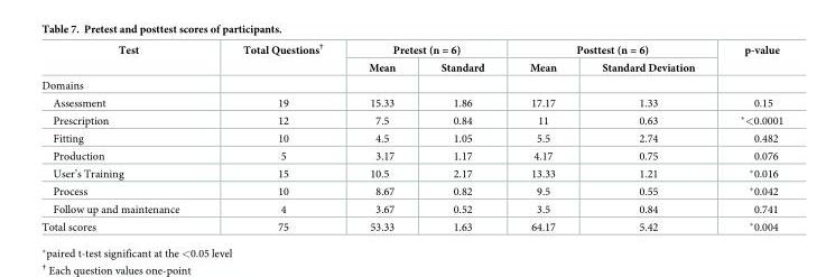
<table><thead><tr><td rowspan="2">Test</td><td rowspan="2">Total Questions<sup>†</sup></td><td colspan="2">Pretest (n = 6)</td><td colspan="2">Posttest (n = 6)</td><td rowspan="2">p-value</td></tr><tr><td>Mean</td><td>Standard</td><td>Mean</td><td>Standard Deviation</td></tr></thead><tbody><tr><td colspan="7">Domains</td></tr><tr><td>Assessment</td><td>19</td><td>15.33</td><td>1.86</td><td>17.17</td><td>1.33</td><td>0.15</td></tr><tr><td>Prescription</td><td>12</td><td>7.5</td><td>0.84</td><td>11</td><td>0.63</td><td>*&lt;0.0001</td></tr><tr><td>Fitting</td><td>10</td><td>4.5</td><td>1.05</td><td>5.5</td><td>2.74</td><td>0.482</td></tr><tr><td>Production</td><td>5</td><td>3.17</td><td>1.17</td><td>4.17</td><td>0.75</td><td>0.076</td></tr><tr><td>User’s Training</td><td>15</td><td>10.5</td><td>2.17</td><td>13.33</td><td>1.21</td><td>*0.016</td></tr><tr><td>Process</td><td>10</td><td>8.67</td><td>0.82</td><td>9.5</td><td>0.55</td><td>*0.042</td></tr><tr><td>Follow up and maintenance</td><td>4</td><td>3.67</td><td>0.52</td><td>3.5</td><td>0.84</td><td>0.741</td></tr><tr><td>Total scores</td><td>75</td><td>53.33</td><td>1.63</td><td>64.17</td><td>5.42</td><td>*0.004</td></tr></tbody></table>